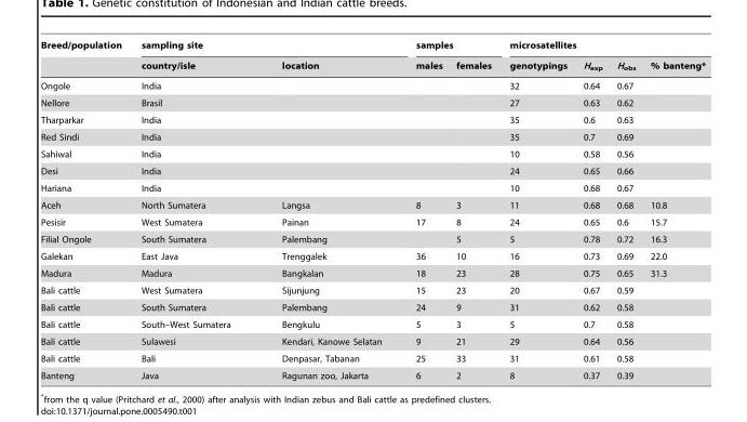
<table><thead><tr><td rowspan="2">Breed/population</td><td colspan="2">sampling site</td><td colspan="2">samples</td><td colspan="4">microsatellites</td></tr><tr><td>country/isle</td><td>location</td><td>males</td><td>females</td><td>genotypings</td><td>H<sub>exp</sub></td><td>H<sub>obs</sub></td><td>% banteng*</td></tr></thead><tbody><tr><td>Ongole</td><td>India</td><td></td><td></td><td></td><td>32</td><td>0.64</td><td>0.67</td><td></td></tr><tr><td>Nellore</td><td>Brasil</td><td></td><td></td><td></td><td>27</td><td>0.63</td><td>0.62</td><td></td></tr><tr><td>Tharparkar</td><td>India</td><td></td><td></td><td></td><td>35</td><td>0.6</td><td>0.63</td><td></td></tr><tr><td>Red Sindi</td><td>India</td><td></td><td></td><td></td><td>35</td><td>0.7</td><td>0.69</td><td></td></tr><tr><td>Sahiwal</td><td>India</td><td></td><td></td><td></td><td>10</td><td>0.58</td><td>0.56</td><td></td></tr><tr><td>Desi</td><td>India</td><td></td><td></td><td></td><td>24</td><td>0.65</td><td>0.66</td><td></td></tr><tr><td>Hariana</td><td>India</td><td></td><td></td><td></td><td>10</td><td>0.68</td><td>0.67</td><td></td></tr><tr><td>Aceh</td><td>North Sumatera</td><td>Langsa</td><td>8</td><td>3</td><td>11</td><td>0.68</td><td>0.68</td><td>10.8</td></tr><tr><td>Pesisir</td><td>West Sumatera</td><td>Painan</td><td>17</td><td>8</td><td>24</td><td>0.65</td><td>0.6</td><td>15.7</td></tr><tr><td>Filial Ongole</td><td>South Sumatera</td><td>Palembang</td><td></td><td>5</td><td>5</td><td>0.78</td><td>0.72</td><td>16.3</td></tr><tr><td>Galekan</td><td>East Java</td><td>Trenggalek</td><td>36</td><td>10</td><td>16</td><td>0.73</td><td>0.69</td><td>22.0</td></tr><tr><td>Madura</td><td>Madura</td><td>Bangkalan</td><td>18</td><td>23</td><td>28</td><td>0.75</td><td>0.65</td><td>31.3</td></tr><tr><td>Bali cattle</td><td>West Sumatera</td><td>Sijunjung</td><td>15</td><td>23</td><td>20</td><td>0.67</td><td>0.59</td><td></td></tr><tr><td>Bali cattle</td><td>South Sumatera</td><td>Palembang</td><td>24</td><td>9</td><td>31</td><td>0.62</td><td>0.58</td><td></td></tr><tr><td>Bali cattle</td><td>South–West Sumatera</td><td>Bengkulu</td><td>5</td><td>3</td><td>5</td><td>0.7</td><td>0.58</td><td></td></tr><tr><td>Bali cattle</td><td>Sulawesi</td><td>Kendari, Kanowe Selatan</td><td>9</td><td>21</td><td>29</td><td>0.64</td><td>0.56</td><td></td></tr><tr><td>Bali cattle</td><td>Bali</td><td>Denpasar, Tabanan</td><td>25</td><td>33</td><td>31</td><td>0.61</td><td>0.58</td><td></td></tr><tr><td>Banteng</td><td>Java</td><td>Ragunan zoo, Jakarta</td><td>6</td><td>2</td><td>8</td><td>0.37</td><td>0.39</td><td></td></tr></tbody></table>